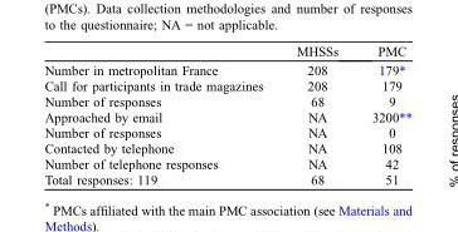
<table><thead><tr><td></td><td>MHSSs</td><td>PMC</td></tr></thead><tbody><tr><td>Number in metropolitan France</td><td>208</td><td>179*</td></tr><tr><td>Call for participants in trade magazines</td><td>208</td><td>179</td></tr><tr><td>Number of responses</td><td>68</td><td>9</td></tr><tr><td>Approached by email</td><td>NA</td><td>3200**</td></tr><tr><td>Number of responses</td><td>NA</td><td>0</td></tr><tr><td>Contacted by telephone</td><td>NA</td><td>108</td></tr><tr><td>Number of telephone responses</td><td>NA</td><td>42</td></tr><tr><td>Total responses: 119</td><td>68</td><td>51</td></tr></tbody></table>